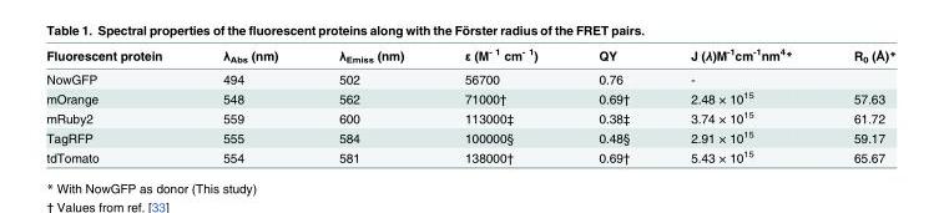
<table><thead><tr><td>Fluorescent protein</td><td>λ<sub>Abs</sub> (nm)</td><td>λ<sub>Emiss</sub> (nm)</td><td>ε (M<sup>- 1</sup> cm<sup>- 1</sup>)</td><td>QY</td><td>J (λ)M<sup>-1</sup>cm<sup>-1</sup>nm<sup>4</sup>*</td><td>R<sub>0</sub> (Å)*</td></tr></thead><tbody><tr><td>NowGFP</td><td>494</td><td>502</td><td>56700</td><td>0.76</td><td>-</td><td></td></tr><tr><td>mOrange</td><td>548</td><td>562</td><td>71000†</td><td>0.69†</td><td>2.48 × 10<sup>15</sup></td><td>57.63</td></tr><tr><td>mRuby2</td><td>559</td><td>600</td><td>113000‡</td><td>0.38‡</td><td>3.74 × 10<sup>15</sup></td><td>61.72</td></tr><tr><td>TagRFP</td><td>555</td><td>584</td><td>100000§</td><td>0.48§</td><td>2.91 × 10<sup>15</sup></td><td>59.17</td></tr><tr><td>tdTomato</td><td>554</td><td>581</td><td>138000†</td><td>0.69†</td><td>5.43 × 10<sup>15</sup></td><td>65.67</td></tr></tbody></table>